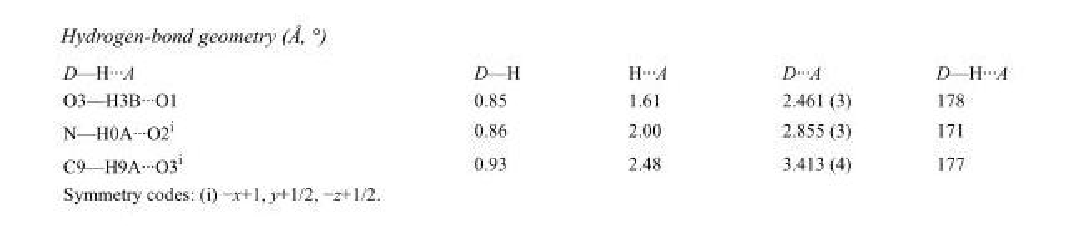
<table><tbody><tr><td>D—H···A</td><td>D—H</td><td>H···A</td><td>D···A</td><td>D—H···A</td></tr><tr><td>O3—H3B···O1</td><td>0.85</td><td>1.61</td><td>2.461 (3)</td><td>178</td></tr><tr><td>N—H0A···O2<sup>i</sup></td><td>0.86</td><td>2.00</td><td>2.855 (3)</td><td>171</td></tr><tr><td>C9—H9A···O3<sup>i</sup></td><td>0.93</td><td>2.48</td><td>3.413 (4)</td><td>177</td></tr></tbody></table>